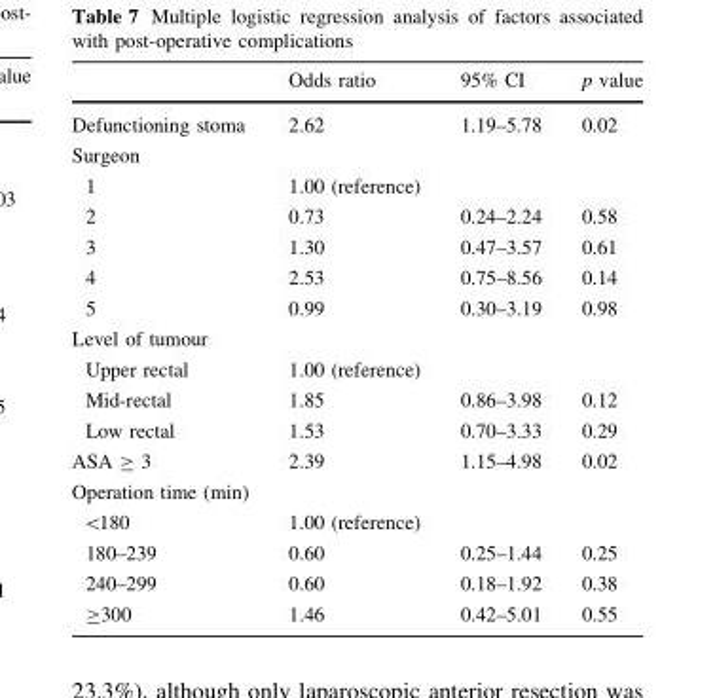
<table><thead><tr><td></td><td>Odds ratio</td><td>95% CI</td><td>p value</td></tr></thead><tbody><tr><td>Defunctioning stoma</td><td>2.62</td><td>1.19–5.78</td><td>0.02</td></tr><tr><td colspan="4">Surgeon</td></tr><tr><td>1</td><td>1.00 (reference)</td><td></td><td></td></tr><tr><td>2</td><td>0.73</td><td>0.24–2.24</td><td>0.58</td></tr><tr><td>3</td><td>1.30</td><td>0.47–3.57</td><td>0.61</td></tr><tr><td>4</td><td>2.53</td><td>0.75–8.56</td><td>0.14</td></tr><tr><td>5</td><td>0.99</td><td>0.30–3.19</td><td>0.98</td></tr><tr><td colspan="4">Level of tumour</td></tr><tr><td>Upper rectal</td><td>1.00 (reference)</td><td></td><td></td></tr><tr><td>Mid-rectal</td><td>1.85</td><td>0.86–3.98</td><td>0.12</td></tr><tr><td>Low rectal</td><td>1.53</td><td>0.70–3.33</td><td>0.29</td></tr><tr><td>ASA ≥ 3</td><td>2.39</td><td>1.15–4.98</td><td>0.02</td></tr><tr><td colspan="4">Operation time (min)</td></tr><tr><td>&lt;180</td><td>1.00 (reference)</td><td></td><td></td></tr><tr><td>180–239</td><td>0.60</td><td>0.25–1.44</td><td>0.25</td></tr><tr><td>240–299</td><td>0.60</td><td>0.18–1.92</td><td>0.38</td></tr><tr><td>≥300</td><td>1.46</td><td>0.42–5.01</td><td>0.55</td></tr></tbody></table>